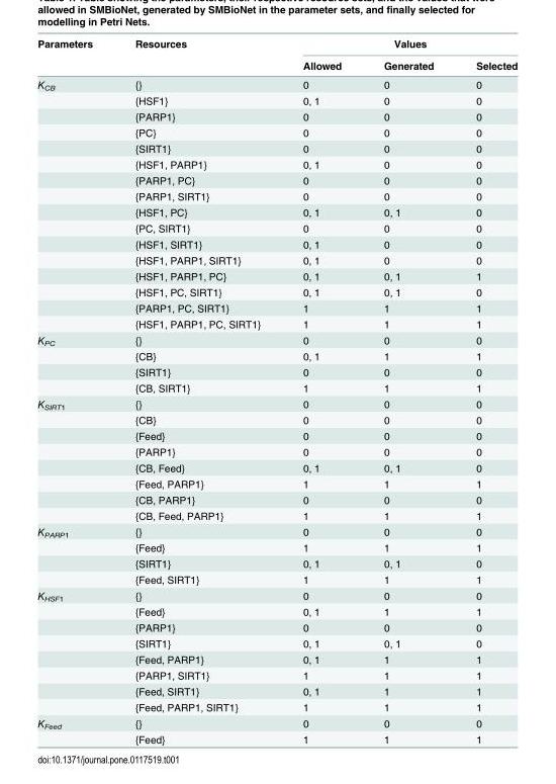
<table><thead><tr><td rowspan="2">Parameters</td><td rowspan="2">Resources</td><td colspan="3">Values</td></tr><tr><td>Allowed</td><td>Generated</td><td>Selected</td></tr></thead><tbody><tr><td rowspan="16">K<sub>CB</sub></td><td>{}</td><td>0</td><td>0</td><td>0</td></tr><tr><td>{HSF1}</td><td>0, 1</td><td>0</td><td>0</td></tr><tr><td>{PARP1}</td><td>0</td><td>0</td><td>0</td></tr><tr><td>{PC}</td><td>0</td><td>0</td><td>0</td></tr><tr><td>{SIRT1}</td><td>0</td><td>0</td><td>0</td></tr><tr><td>{HSF1, PARP1}</td><td>0, 1</td><td>0</td><td>0</td></tr><tr><td>{PARP1, PC}</td><td>0</td><td>0</td><td>0</td></tr><tr><td>{PARP1, SIRT1}</td><td>0</td><td>0</td><td>0</td></tr><tr><td>{HSF1, PC}</td><td>0, 1</td><td>0, 1</td><td>0</td></tr><tr><td>{PC, SIRT1}</td><td>0</td><td>0</td><td>0</td></tr><tr><td>{HSF1, SIRT1}</td><td>0, 1</td><td>0</td><td>0</td></tr><tr><td>{HSF1, PARP1, SIRT1}</td><td>0, 1</td><td>0</td><td>0</td></tr><tr><td>{HSF1, PARP1, PC}</td><td>0, 1</td><td>0, 1</td><td>1</td></tr><tr><td>{HSF1, PC, SIRT1}</td><td>0, 1</td><td>0, 1</td><td>0</td></tr><tr><td>{PARP1, PC, SIRT1}</td><td>1</td><td>1</td><td>1</td></tr><tr><td>{HSF1, PARP1, PC, SIRT1}</td><td>1</td><td>1</td><td>1</td></tr><tr><td rowspan="4">K<sub>PC</sub></td><td>{}</td><td>0</td><td>0</td><td>0</td></tr><tr><td>{CB}</td><td>0, 1</td><td>1</td><td>1</td></tr><tr><td>{SIRT1}</td><td>0</td><td>0</td><td>0</td></tr><tr><td>{CB, SIRT1}</td><td>1</td><td>1</td><td>1</td></tr><tr><td rowspan="8">K<sub>SIRT1</sub></td><td>{}</td><td>0</td><td>0</td><td>0</td></tr><tr><td>{CB}</td><td>0</td><td>0</td><td>0</td></tr><tr><td>{Feed}</td><td>0</td><td>0</td><td>0</td></tr><tr><td>{PARP1}</td><td>0</td><td>0</td><td>0</td></tr><tr><td>{CB, Feed}</td><td>0, 1</td><td>0, 1</td><td>0</td></tr><tr><td>{Feed, PARP1}</td><td>1</td><td>1</td><td>1</td></tr><tr><td>{CB, PARP1}</td><td>0</td><td>0</td><td>0</td></tr><tr><td>{CB, Feed, PARP1}</td><td>1</td><td>1</td><td>1</td></tr><tr><td rowspan="4">K<sub>PARP1</sub></td><td>{}</td><td>0</td><td>0</td><td>0</td></tr><tr><td>{Feed}</td><td>1</td><td>1</td><td>1</td></tr><tr><td>{SIRT1}</td><td>0, 1</td><td>0, 1</td><td>0</td></tr><tr><td>{Feed, SIRT1}</td><td>1</td><td>1</td><td>1</td></tr><tr><td rowspan="8">K<sub>HSF1</sub></td><td>{}</td><td>0</td><td>0</td><td>0</td></tr><tr><td>{Feed}</td><td>0, 1</td><td>1</td><td>1</td></tr><tr><td>{PARP1}</td><td>0</td><td>0</td><td>0</td></tr><tr><td>{SIRT1}</td><td>0, 1</td><td>0, 1</td><td>0</td></tr><tr><td>{Feed, PARP1}</td><td>0, 1</td><td>1</td><td>1</td></tr><tr><td>{PARP1, SIRT1}</td><td>1</td><td>1</td><td>1</td></tr><tr><td>{Feed, SIRT1}</td><td>0, 1</td><td>1</td><td>1</td></tr><tr><td>{Feed, PARP1, SIRT1}</td><td>1</td><td>1</td><td>1</td></tr><tr><td rowspan="2">K<sub>Feed</sub></td><td>{}</td><td>0</td><td>0</td><td>0</td></tr><tr><td>{Feed}</td><td>1</td><td>1</td><td>1</td></tr></tbody></table>